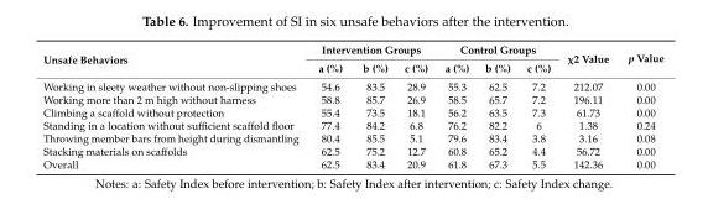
<table><thead><tr><td rowspan="2">Unsafe Behaviors</td><td colspan="3">Intervention Groups</td><td colspan="3">Control Groups</td><td rowspan="2">χ2 Value</td><td rowspan="2">p Value</td></tr><tr><td>a (%)</td><td>b (%)</td><td>c (%)</td><td>a (%)</td><td>b (%)</td><td>c (%)</td></tr></thead><tbody><tr><td>Working in sleety weather without non-slipping shoes</td><td>54.6</td><td>83.5</td><td>28.9</td><td>55.3</td><td>62.5</td><td>7.2</td><td>212.07</td><td>0.00</td></tr><tr><td>Working more than 2 m high without harness</td><td>58.8</td><td>85.7</td><td>26.9</td><td>58.5</td><td>65.7</td><td>7.2</td><td>196.11</td><td>0.00</td></tr><tr><td>Climbing a scaffold without protection</td><td>55.4</td><td>73.5</td><td>18.1</td><td>56.2</td><td>63.5</td><td>7.3</td><td>61.73</td><td>0.00</td></tr><tr><td>Standing in a location without sufficient scaffold floor</td><td>77.4</td><td>84.2</td><td>6.8</td><td>76.2</td><td>82.2</td><td>6</td><td>1.38</td><td>0.24</td></tr><tr><td>Throwing member bars from height during dismantling</td><td>80.4</td><td>85.5</td><td>5.1</td><td>79.6</td><td>83.4</td><td>3.8</td><td>3.16</td><td>0.08</td></tr><tr><td>Stacking materials on scaffolds</td><td>62.5</td><td>75.2</td><td>12.7</td><td>60.8</td><td>65.2</td><td>4.4</td><td>56.72</td><td>0.00</td></tr><tr><td>Overall</td><td>62.5</td><td>83.4</td><td>20.9</td><td>61.8</td><td>67.3</td><td>5.5</td><td>142.36</td><td>0.00</td></tr></tbody></table>